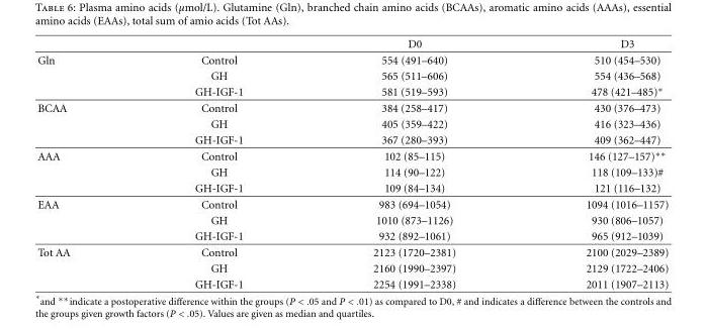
<table><thead><tr><td></td><td></td><td>D0</td><td>D3</td></tr></thead><tbody><tr><td rowspan="3">Gln</td><td>Control</td><td>554 (491–640)</td><td>510 (454–530)</td></tr><tr><td>GH</td><td>565 (511–606)</td><td>554 (436–568)</td></tr><tr><td>GH-IGF-1</td><td>581 (519–593)</td><td>478 (421–485)∗</td></tr><tr><td rowspan="3">BCAA</td><td>Control</td><td>384 (258–417)</td><td>430 (376–473)</td></tr><tr><td>GH</td><td>405 (359–422)</td><td>416 (323–436)</td></tr><tr><td>GH-IGF-1</td><td>367 (280–393)</td><td>409 (362–447)</td></tr><tr><td rowspan="3">AAA</td><td>Control</td><td>102 (85–115)</td><td>146 (127–157)∗∗</td></tr><tr><td>GH</td><td>114 (90–122)</td><td>118 (109–133)#</td></tr><tr><td>GH-IGF-1</td><td>109 (84–134)</td><td>121 (116–132)</td></tr><tr><td rowspan="3">EAA</td><td>Control</td><td>983 (694–1054)</td><td>1094 (1016–1157)</td></tr><tr><td>GH</td><td>1010 (873–1126)</td><td>930 (806–1057)</td></tr><tr><td>GH-IGF-1</td><td>932 (892–1061)</td><td>965 (912–1039)</td></tr><tr><td rowspan="3">Tot AA</td><td>Control</td><td>2123 (1720–2381)</td><td>2100 (2029–2389)</td></tr><tr><td>GH</td><td>2160 (1990–2397)</td><td>2129 (1722–2406)</td></tr><tr><td>GH-IGF-1</td><td>2254 (1991–2338)</td><td>2011 (1907–2113)</td></tr></tbody></table>